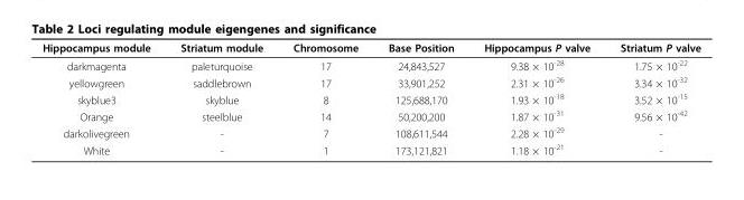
<table><thead><tr><td>Hippocampus module</td><td>Striatum module</td><td>Chromosome</td><td>Base Position</td><td>Hippocampus P valve</td><td>Striatum P valve</td></tr></thead><tbody><tr><td>darkmagenta</td><td>paleturquoise</td><td>17</td><td>24,843,527</td><td>9.38 × 10<sup>-28</sup></td><td>1.75 × 10<sup>-22</sup></td></tr><tr><td>yellowgreen</td><td>saddlebrown</td><td>17</td><td>33,901,252</td><td>2.31 × 10<sup>-26</sup></td><td>3.34 × 10<sup>-32</sup></td></tr><tr><td>skyblue3</td><td>skyblue</td><td>8</td><td>125,688,170</td><td>1.93 × 10<sup>-18</sup></td><td>3.52 × 10<sup>-15</sup></td></tr><tr><td>Orange</td><td>steelblue</td><td>14</td><td>50,200,200</td><td>1.87 × 10<sup>-31</sup></td><td>9.56 × 10<sup>-42</sup></td></tr><tr><td>darkolivegreen</td><td>-</td><td>7</td><td>108,611,544</td><td>2.28 × 10<sup>-29</sup></td><td>-</td></tr><tr><td>White</td><td>-</td><td>1</td><td>173,121,821</td><td>1.18 × 10<sup>-21</sup></td><td>-</td></tr></tbody></table>